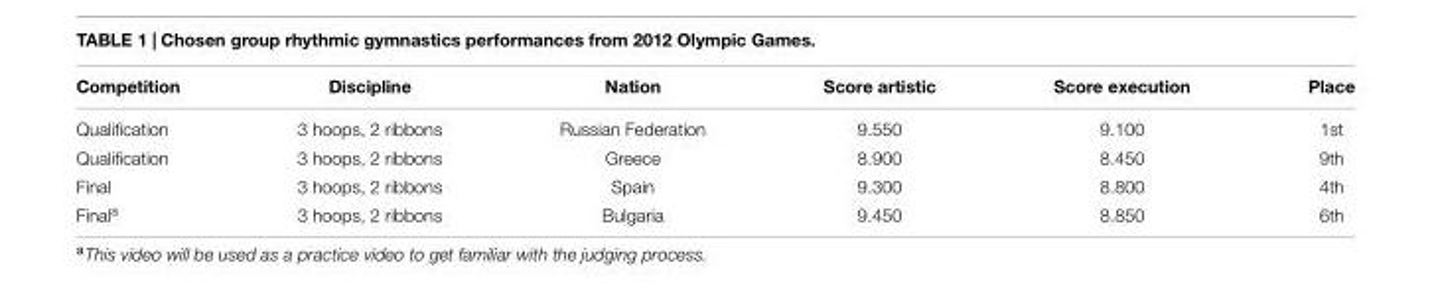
<table><thead><tr><td>Competition</td><td>Discipline</td><td>Nation</td><td>Score artistic</td><td>Score execution</td><td>Place</td></tr></thead><tbody><tr><td>Qualification</td><td>3 hoops, 2 ribbons</td><td>Russian Federation</td><td>9.550</td><td>9.100</td><td>1st</td></tr><tr><td>Qualification</td><td>3 hoops, 2 ribbons</td><td>Greece</td><td>8.900</td><td>8.450</td><td>9th</td></tr><tr><td>Final</td><td>3 hoops, 2 ribbons</td><td>Spain</td><td>9.300</td><td>8.800</td><td>4th</td></tr><tr><td>Final<sup>a</sup></td><td>3 hoops, 2 ribbons</td><td>Bulgaria</td><td>9.450</td><td>8.850</td><td>6th</td></tr></tbody></table>